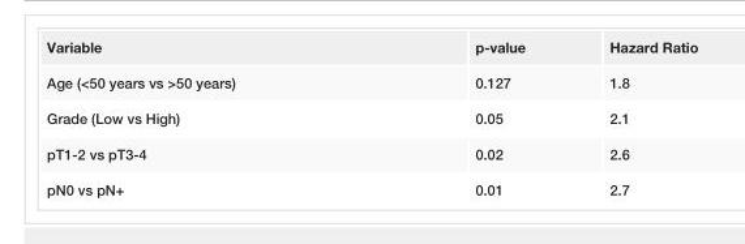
<table><tbody><tr><td>Variable</td><td>p-value</td><td>Hazard Ratio</td></tr><tr><td>Age (&lt;50 years vs &gt;50 years)</td><td>0.127</td><td>1.8</td></tr><tr><td>Grade (Low vs High)</td><td>0.05</td><td>2.1</td></tr><tr><td>pT1-2 vs pT3-4</td><td>0.02</td><td>2.6</td></tr><tr><td>pN0 vs pN+</td><td>0.01</td><td>2.7</td></tr></tbody></table>